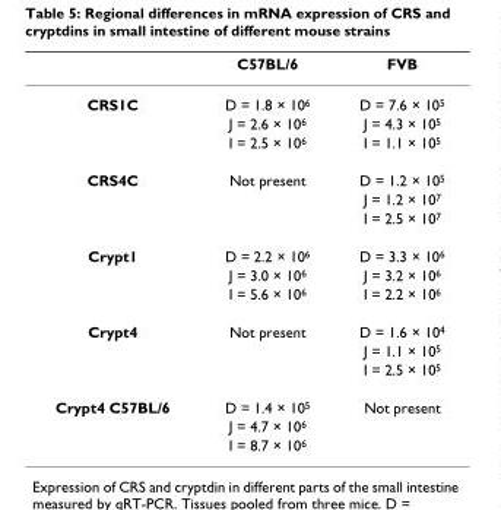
<table><thead><tr><td></td><td>C57BL/6</td><td>FVB</td></tr></thead><tbody><tr><td rowspan="3">CRS1C</td><td>D = 1.8 × 10<sup>6</sup></td><td>D = 7.6 × 10<sup>5</sup></td></tr><tr><td>J = 2.6 × 10<sup>6</sup></td><td>J = 4.3 × 10<sup>5</sup></td></tr><tr><td>I = 2.5 × 10<sup>6</sup></td><td>I = 1.1 × 10<sup>5</sup></td></tr><tr><td rowspan="3">CRS4C</td><td>Not present</td><td>D = 1.2 × 10<sup>5</sup></td></tr><tr><td></td><td>J = 1.2 × 10<sup>7</sup></td></tr><tr><td></td><td>I = 2.5 × 10<sup>7</sup></td></tr><tr><td rowspan="3">Crypt1</td><td>D = 2.2 × 10<sup>6</sup></td><td>D = 3.3 × 10<sup>6</sup></td></tr><tr><td>J = 3.0 × 10<sup>6</sup></td><td>J = 3.2 × 10<sup>6</sup></td></tr><tr><td>I = 5.6 × 10<sup>6</sup></td><td>I = 2.2 × 10<sup>6</sup></td></tr><tr><td rowspan="3">Crypt4</td><td>Not present</td><td>D = 1.6 × 10<sup>4</sup></td></tr><tr><td></td><td>J = 1.1 × 10<sup>5</sup></td></tr><tr><td></td><td>I = 2.5 × 10<sup>5</sup></td></tr><tr><td rowspan="3">Crypt4 C57BL/6</td><td>D = 1.4 × 10<sup>5</sup></td><td>Not present</td></tr><tr><td>J = 4.7 × 10<sup>6</sup></td><td></td></tr><tr><td>I = 8.7 × 10<sup>6</sup></td><td></td></tr></tbody></table>